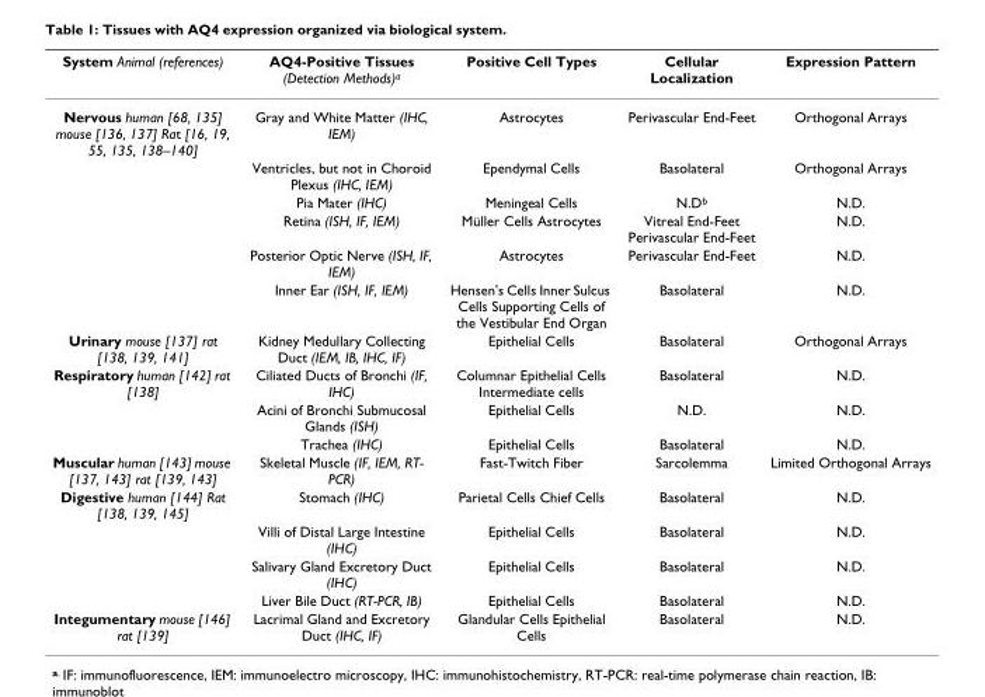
<table><thead><tr><td>System Animal (references)</td><td>AQ4-Positive Tissues (Detection Methods)<sup>a</sup></td><td>Positive Cell Types</td><td>Cellular Localization</td><td>Expression Pattern</td></tr></thead><tbody><tr><td rowspan="6">Nervous human [68, 135] mouse [136, 137] Rat [16, 19, 55, 135, 138–140]</td><td>Gray and White Matter (IHC, IEM)</td><td>Astrocytes</td><td>Perivascular End-Feet</td><td>Orthogonal Arrays</td></tr><tr><td>Ventricles, but not in Choroid Plexus (IHC, IEM)</td><td>Ependymal Cells</td><td>Basolateral</td><td>Orthogonal Arrays</td></tr><tr><td>Pia Mater (IHC)</td><td>Meningeal Cells</td><td>N.D<sup>b</sup></td><td>N.D.</td></tr><tr><td>Retina (ISH, IF, IEM)</td><td>Müller Cells Astrocytes</td><td>Vitreal End-Feet Perivascular End-Feet</td><td>N.D.</td></tr><tr><td>Posterior Optic Nerve (ISH, IF, IEM)</td><td>Astrocytes</td><td>Perivascular End-Feet</td><td>N.D.</td></tr><tr><td>Inner Ear (ISH, IF, IEM)</td><td>Hensen&#x27;s Cells Inner Sulcus Cells Supporting Cells of the Vestibular End Organ</td><td>Basolateral</td><td>N.D.</td></tr><tr><td>Urinary mouse [137] rat [138, 139, 141]</td><td>Kidney Medullary Collecting Duct (IEM, IB, IHC, IF)</td><td>Epithelial Cells</td><td>Basolateral</td><td>Orthogonal Arrays</td></tr><tr><td rowspan="3">Respiratory human [142] rat [138]</td><td>Ciliated Ducts of Bronchi (IF, IHC)</td><td>Columnar Epithelial Cells Intermediate cells</td><td>Basolateral</td><td>N.D.</td></tr><tr><td>Acini of Bronchi Submucosal Glands (ISH)</td><td>Epithelial Cells</td><td>N.D.</td><td>N.D.</td></tr><tr><td>Trachea (IHC)</td><td>Epithelial Cells</td><td>Basolateral</td><td>N.D.</td></tr><tr><td>Muscular human [143] mouse [137, 143] rat [139, 143]</td><td>Skeletal Muscle (IF, IEM, RT- PCR)</td><td>Fast-Twitch Fiber</td><td>Sarcolemma</td><td>Limited Orthogonal Arrays</td></tr><tr><td rowspan="4">Digestive human [144] Rat [138, 139, 145]</td><td>Stomach (IHC)</td><td>Parietal Cells Chief Cells</td><td>Basolateral</td><td>N.D.</td></tr><tr><td>Villi of Distal Large Intestine (IHC)</td><td>Epithelial Cells</td><td>Basolateral</td><td>N.D.</td></tr><tr><td>Salivary Gland Excretory Duct (IHC)</td><td>Epithelial Cells</td><td>Basolateral</td><td>N.D.</td></tr><tr><td>Liver Bile Duct (RT-PCR, IB)</td><td>Epithelial Cells</td><td>Basolateral</td><td>N.D.</td></tr><tr><td>Integumentary mouse [146] rat [139]</td><td>Lacrimal Gland and Excretory Duct (IHC, IF)</td><td>Glandular Cells Epithelial Cells</td><td>Basolateral</td><td>N.D.</td></tr></tbody></table>